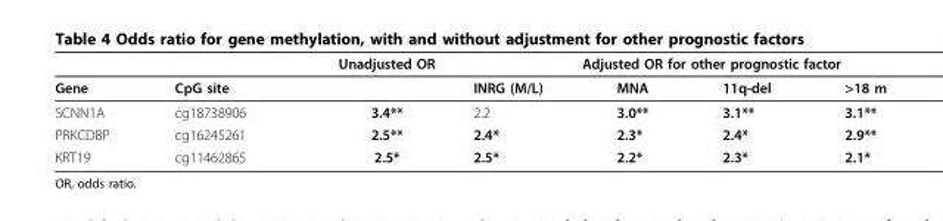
<table><thead><tr><td rowspan="2">Gene</td><td rowspan="2">CpG site</td><td rowspan="2">Unadjusted OR</td><td colspan="4">Adjusted OR for other prognostic factor</td></tr><tr><td>INRG (M/L)</td><td>MNA</td><td>11q-del</td><td>&gt;18 m</td></tr></thead><tbody><tr><td>SCNN1A</td><td>cg18738906</td><td>3.4**</td><td>2.2</td><td>3.0**</td><td>3.1**</td><td>3.1**</td></tr><tr><td>PRKCDBP</td><td>cg16245261</td><td>2.5**</td><td>2.4*</td><td>2.3*</td><td>2.4*</td><td>2.9**</td></tr><tr><td>KRT19</td><td>cg11462865</td><td>2.5*</td><td>2.5*</td><td>2.2*</td><td>2.3*</td><td>2.1*</td></tr></tbody></table>